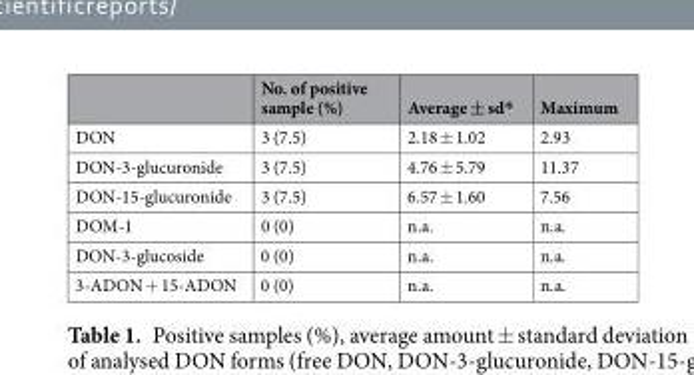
<table><thead><tr><td></td><td>No. of positive sample (%)</td><td>Average ± sd*</td><td>Maximum</td></tr></thead><tbody><tr><td>DON</td><td>3 (7.5)</td><td>2.18 ± 1.02</td><td>2.93</td></tr><tr><td>DON-3-glucuronide</td><td>3 (7.5)</td><td>4.76 ± 5.79</td><td>11.37</td></tr><tr><td>DON-15-glucuronide</td><td>3 (7.5)</td><td>6.57 ± 1.60</td><td>7.56</td></tr><tr><td>DOM-1</td><td>0 (0)</td><td>n.a.</td><td>n.a.</td></tr><tr><td>DON-3-glucoside</td><td>0 (0)</td><td>n.a.</td><td>n.a.</td></tr><tr><td>3-ADON + 15-ADON</td><td>0 (0)</td><td>n.a.</td><td>n.a.</td></tr></tbody></table>